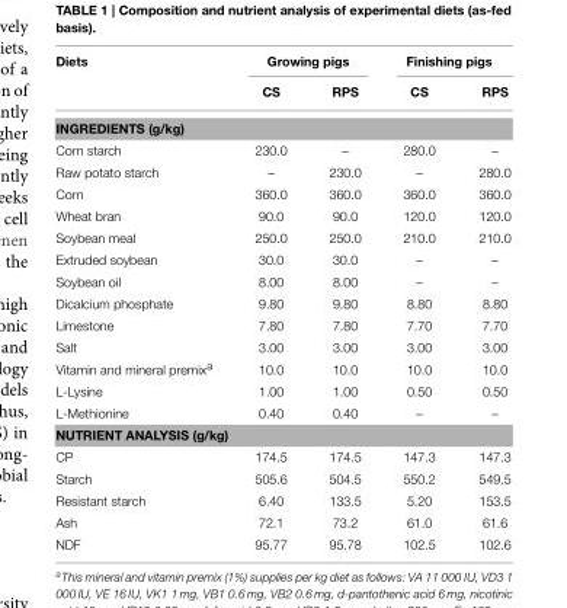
<table><thead><tr><td rowspan="2">Diets</td><td colspan="2">Growing pigs</td><td colspan="2">Finishing pigs</td></tr><tr><td>CS</td><td>RPS</td><td>CS</td><td>RPS</td></tr></thead><tbody><tr><td colspan="5">INGREDIENTS (g/kg)</td></tr><tr><td>Corn starch</td><td>230.0</td><td>–</td><td>280.0</td><td>–</td></tr><tr><td>Raw potato starch</td><td>–</td><td>230.0</td><td>–</td><td>280.0</td></tr><tr><td>Corn</td><td>360.0</td><td>360.0</td><td>360.0</td><td>360.0</td></tr><tr><td>Wheat bran</td><td>90.0</td><td>90.0</td><td>120.0</td><td>120.0</td></tr><tr><td>Soybean meal</td><td>250.0</td><td>250.0</td><td>210.0</td><td>210.0</td></tr><tr><td>Extruded soybean</td><td>30.0</td><td>30.0</td><td>–</td><td>–</td></tr><tr><td>Soybean oil</td><td>8.00</td><td>8.00</td><td>–</td><td>–</td></tr><tr><td>Dicalcium phosphate</td><td>9.80</td><td>9.80</td><td>8.80</td><td>8.80</td></tr><tr><td>Limestone</td><td>7.80</td><td>7.80</td><td>7.70</td><td>7.70</td></tr><tr><td>Salt</td><td>3.00</td><td>3.00</td><td>3.00</td><td>3.00</td></tr><tr><td>Vitamin and mineral premix<sup>a</sup></td><td>10.0</td><td>10.0</td><td>10.0</td><td>10.0</td></tr><tr><td>L-Lysine</td><td>1.00</td><td>1.00</td><td>0.50</td><td>0.50</td></tr><tr><td>L-Methionine</td><td>0.40</td><td>0.40</td><td>–</td><td>–</td></tr><tr><td colspan="5">NUTRIENT ANALYSIS (g/kg)</td></tr><tr><td>CP</td><td>174.5</td><td>174.5</td><td>147.3</td><td>147.3</td></tr><tr><td>Starch</td><td>505.6</td><td>504.5</td><td>550.2</td><td>549.5</td></tr><tr><td>Resistant starch</td><td>6.40</td><td>133.5</td><td>5.20</td><td>153.5</td></tr><tr><td>Ash</td><td>72.1</td><td>73.2</td><td>61.0</td><td>61.6</td></tr><tr><td>NDF</td><td>95.77</td><td>95.78</td><td>102.5</td><td>102.6</td></tr></tbody></table>